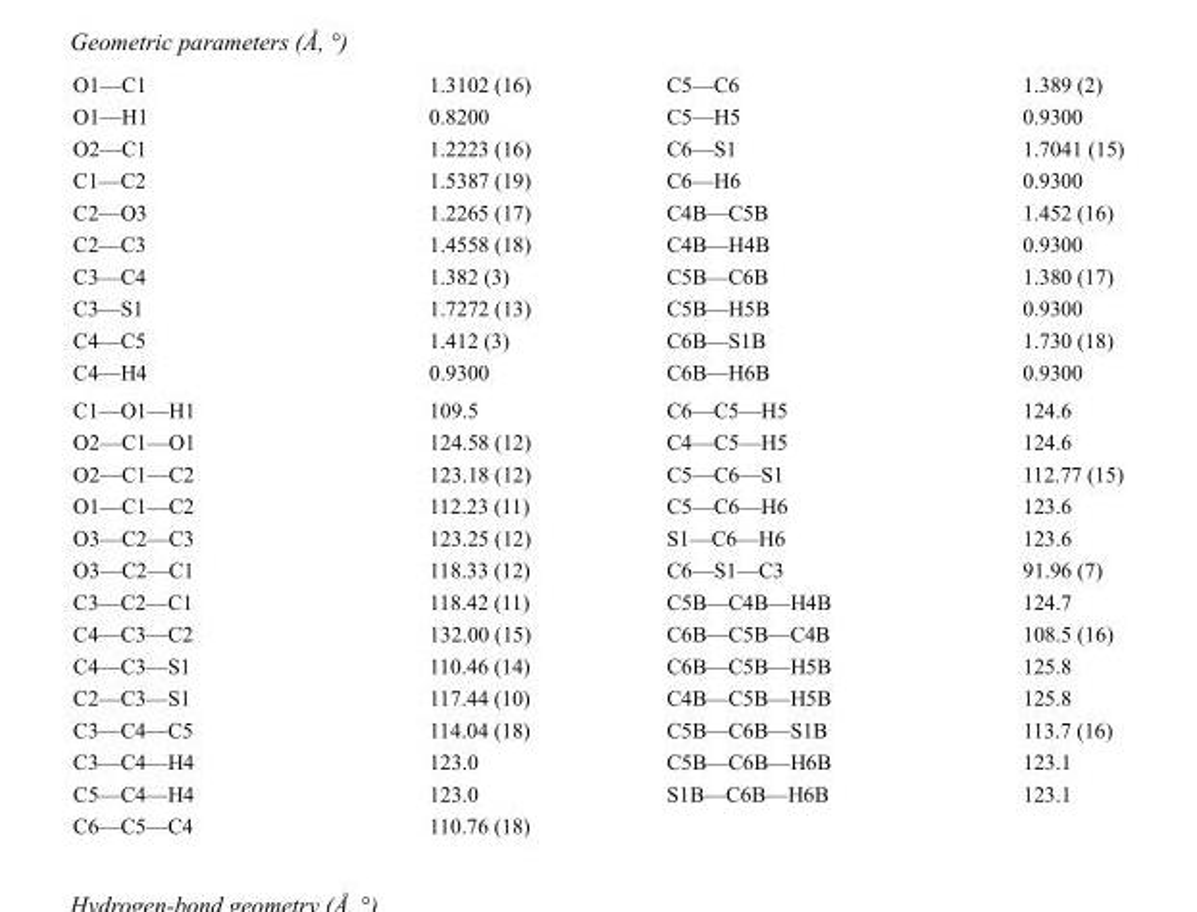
<table><tbody><tr><td>O1—C1</td><td>1.3102 (16)</td><td>C5—C6</td><td>1.389 (2)</td></tr><tr><td>O1—H1</td><td>0.8200</td><td>C5—H5</td><td>0.9300</td></tr><tr><td>O2—C1</td><td>1.2223 (16)</td><td>C6—S1</td><td>1.7041 (15)</td></tr><tr><td>C1—C2</td><td>1.5387 (19)</td><td>C6—H6</td><td>0.9300</td></tr><tr><td>C2—O3</td><td>1.2265 (17)</td><td>C4B—C5B</td><td>1.452 (16)</td></tr><tr><td>C2—C3</td><td>1.4558 (18)</td><td>C4B—H4B</td><td>0.9300</td></tr><tr><td>C3—C4</td><td>1.382 (3)</td><td>C5B—C6B</td><td>1.380 (17)</td></tr><tr><td>C3—S1</td><td>1.7272 (13)</td><td>C5B—H5B</td><td>0.9300</td></tr><tr><td>C4—C5</td><td>1.412 (3)</td><td>C6B—S1B</td><td>1.730 (18)</td></tr><tr><td>C4—H4</td><td>0.9300</td><td>C6B—H6B</td><td>0.9300</td></tr><tr><td>C1—O1—H1</td><td>109.5</td><td>C6—C5—H5</td><td>124.6</td></tr><tr><td>O2—C1—O1</td><td>124.58 (12)</td><td>C4—C5—H5</td><td>124.6</td></tr><tr><td>O2—C1—C2</td><td>123.18 (12)</td><td>C5—C6—S1</td><td>112.77 (15)</td></tr><tr><td>O1—C1—C2</td><td>112.23 (11)</td><td>C5—C6—H6</td><td>123.6</td></tr><tr><td>O3—C2—C3</td><td>123.25 (12)</td><td>S1—C6—H6</td><td>123.6</td></tr><tr><td>O3—C2—C1</td><td>118.33 (12)</td><td>C6—S1—C3</td><td>91.96 (7)</td></tr><tr><td>C3—C2—C1</td><td>118.42 (11)</td><td>C5B—C4B—H4B</td><td>124.7</td></tr><tr><td>C4—C3—C2</td><td>132.00 (15)</td><td>C6B—C5B—C4B</td><td>108.5 (16)</td></tr><tr><td>C4—C3—S1</td><td>110.46 (14)</td><td>C6B—C5B—H5B</td><td>125.8</td></tr><tr><td>C2—C3—S1</td><td>117.44 (10)</td><td>C4B—C5B—H5B</td><td>125.8</td></tr><tr><td>C3—C4—C5</td><td>114.04 (18)</td><td>C5B—C6B—S1B</td><td>113.7 (16)</td></tr><tr><td>C3—C4—H4</td><td>123.0</td><td>C5B—C6B—H6B</td><td>123.1</td></tr><tr><td>C5—C4—H4</td><td>123.0</td><td>S1B—C6B—H6B</td><td>123.1</td></tr><tr><td>C6—C5—C4</td><td>110.76 (18)</td><td></td><td></td></tr></tbody></table>